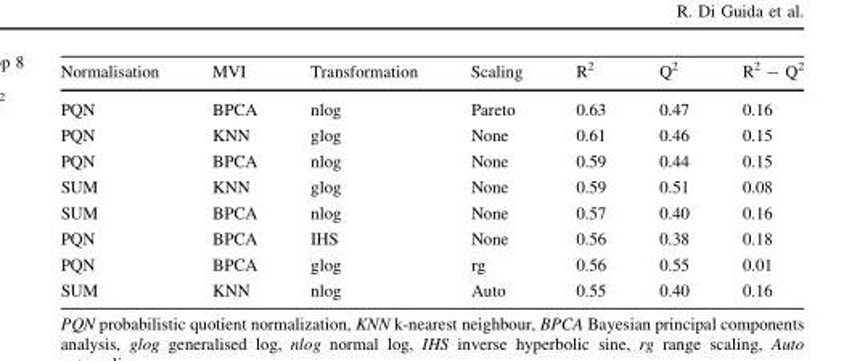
<table><thead><tr><td>Normalisation</td><td>MVI</td><td>Transformation</td><td>Scaling</td><td>R<sup>2</sup></td><td>Q<sup>2</sup></td><td>R<sup>2</sup> - Q<sup>2</sup></td></tr></thead><tbody><tr><td>PQN</td><td>BPCA</td><td>nlog</td><td>Pareto</td><td>0.63</td><td>0.47</td><td>0.16</td></tr><tr><td>PQN</td><td>KNN</td><td>glog</td><td>None</td><td>0.61</td><td>0.46</td><td>0.15</td></tr><tr><td>PQN</td><td>BPCA</td><td>nlog</td><td>None</td><td>0.59</td><td>0.44</td><td>0.15</td></tr><tr><td>SUM</td><td>KNN</td><td>glog</td><td>None</td><td>0.59</td><td>0.51</td><td>0.08</td></tr><tr><td>SUM</td><td>BPCA</td><td>nlog</td><td>None</td><td>0.57</td><td>0.40</td><td>0.16</td></tr><tr><td>PQN</td><td>BPCA</td><td>IHS</td><td>None</td><td>0.56</td><td>0.38</td><td>0.18</td></tr><tr><td>PQN</td><td>BPCA</td><td>glog</td><td>rg</td><td>0.56</td><td>0.55</td><td>0.01</td></tr><tr><td>SUM</td><td>KNN</td><td>nlog</td><td>Auto</td><td>0.55</td><td>0.40</td><td>0.16</td></tr></tbody></table>